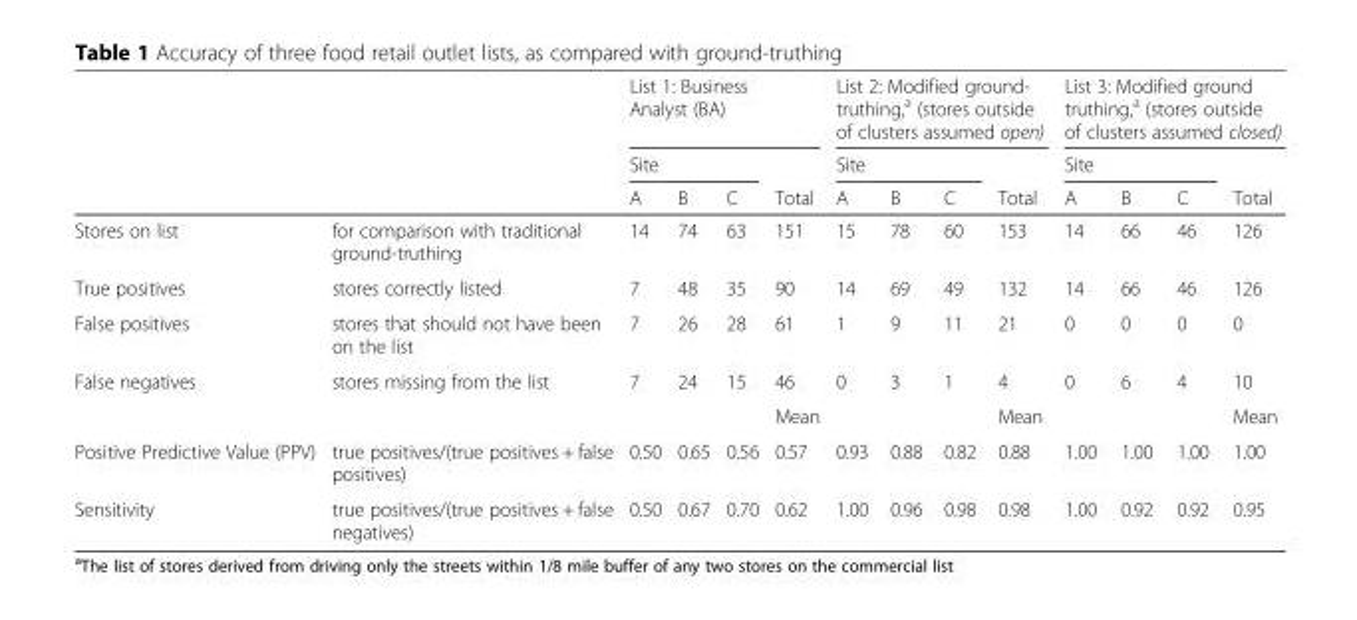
<table><thead><tr><td rowspan="3"></td><td rowspan="3"></td><td colspan="4">List 1: Business Analyst (BA)</td><td colspan="4">List 2: Modified ground- truthing,<sup>a</sup> (stores outside of clusters assumed open)</td><td colspan="4">List 3: Modified ground truthing,<sup>a</sup> (stores outside of clusters assumed closed)</td></tr><tr><td colspan="3">Site</td><td rowspan="2">Total</td><td colspan="3">Site</td><td rowspan="2">Total</td><td colspan="3">Site</td><td rowspan="2">Total</td></tr><tr><td>A</td><td>B</td><td>C</td><td>A</td><td>B</td><td>C</td><td>A</td><td>B</td><td>C</td></tr></thead><tbody><tr><td>Stores on list</td><td>for comparison with traditional ground-truthing</td><td>14</td><td>74</td><td>63</td><td>151</td><td>15</td><td>78</td><td>60</td><td>153</td><td>14</td><td>66</td><td>46</td><td>126</td></tr><tr><td>True positives</td><td>stores correctly listed</td><td>7</td><td>48</td><td>35</td><td>90</td><td>14</td><td>69</td><td>49</td><td>132</td><td>14</td><td>66</td><td>46</td><td>126</td></tr><tr><td>False positives</td><td>stores that should not have been on the list</td><td>7</td><td>26</td><td>28</td><td>61</td><td>1</td><td>9</td><td>11</td><td>21</td><td>0</td><td>0</td><td>0</td><td>0</td></tr><tr><td rowspan="2">False negatives</td><td>stores missing from the list</td><td>7</td><td>24</td><td>15</td><td>46</td><td>0</td><td>3</td><td>1</td><td>4</td><td>0</td><td>6</td><td>4</td><td>10</td></tr><tr><td></td><td></td><td></td><td></td><td>Mean</td><td></td><td></td><td></td><td>Mean</td><td></td><td></td><td></td><td>Mean</td></tr><tr><td>Positive Predictive Value (PPV)</td><td>true positives/(true positives + false positives)</td><td>0.50</td><td>0.65</td><td>0.56</td><td>0.57</td><td>0.93</td><td>0.88</td><td>0.82</td><td>0.88</td><td>1.00</td><td>1.00</td><td>1.00</td><td>1.00</td></tr><tr><td>Sensitivity</td><td>true positives/(true positives + false negatives)</td><td>0.50</td><td>0.67</td><td>0.70</td><td>0.62</td><td>1.00</td><td>0.96</td><td>0.98</td><td>0.98</td><td>1.00</td><td>0.92</td><td>0.92</td><td>0.95</td></tr></tbody></table>